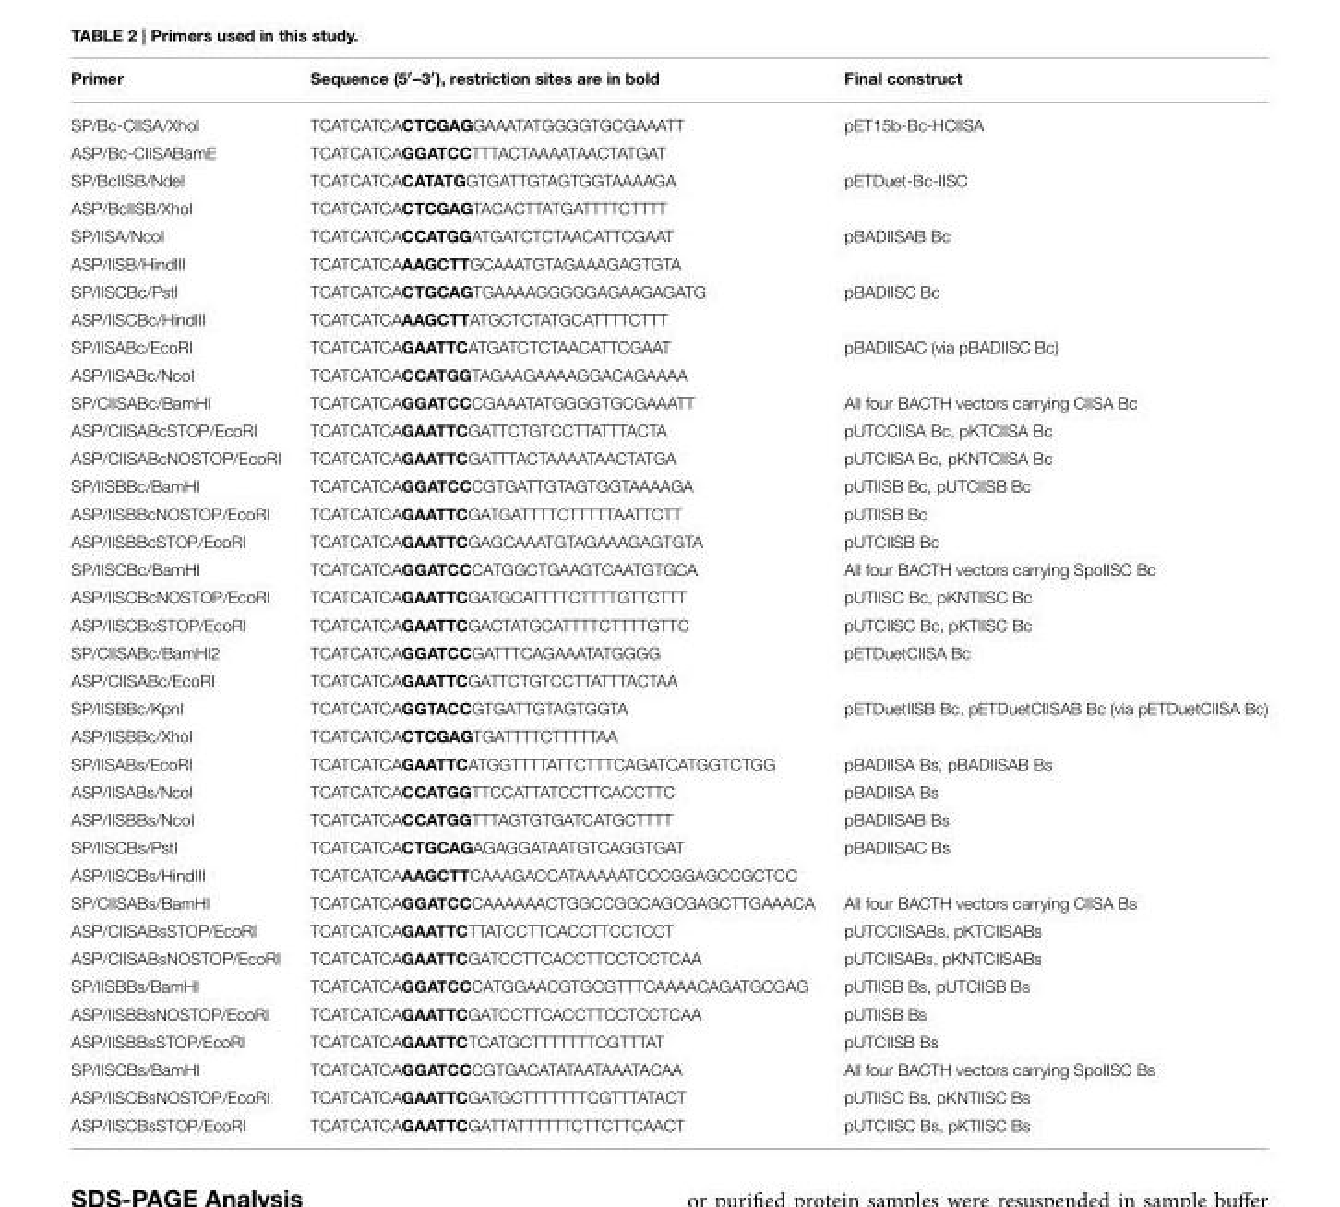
<table><thead><tr><td>Primer</td><td>Sequence (5′–3′), restriction sites are in bold</td><td>Final construct</td></tr></thead><tbody><tr><td>SP/Bc-CIISA/XhoI</td><td>TCATCATCACTCGAGGAAATATGGGGTGCGAAATT</td><td>pET15b-Bc-HCIISA</td></tr><tr><td>ASP/Bc-CIISABamE</td><td>TCATCATCAGGATCCTTTACTAAAATAACTATGAT</td><td></td></tr><tr><td>SP/BcIISB/NdeI</td><td>TCATCATCACATATGGTGATTGTAGTGGTAAAAGA</td><td>pETDuet-Bc-IISC</td></tr><tr><td>ASP/BcIISB/XhoI</td><td>TCATCATCACTCGAGTACACTTATGATTTTCTTTT</td><td></td></tr><tr><td>SP/IISA/NcoI</td><td>TCATCATCACCATGGATGATCTCTAACATTCGAAT</td><td>pBADIISAB Bc</td></tr><tr><td>ASP/IISB/HindIII</td><td>TCATCATCAAAGCTTGCAAATGTAGAAAGAGTGTA</td><td></td></tr><tr><td>SP/IISCBc/PstI</td><td>TCATCATCACTGCAGTGAAAAGGGGGAGAAGAGATG</td><td>pBADIISC Bc</td></tr><tr><td>ASP/IISCBc/HindIII</td><td>TCATCATCAAAGCTTATGCTCTATGCATTTTCTTT</td><td></td></tr><tr><td>SP/IISABc/EcoRI</td><td>TCATCATCAGAATTCATGATCTCTAACATTCGAAT</td><td>pBADIISAC (via pBADIISC Bc)</td></tr><tr><td>ASP/IISABc/NcoI</td><td>TCATCATCACCATGGTAGAAGAAAAGGACAGAAAA</td><td></td></tr><tr><td>SP/CIISABc/BamHI</td><td>TCATCATCAGGATCCCGAAATATGGGGTGCGAAATT</td><td>All four BACTH vectors carrying CIISA Bc</td></tr><tr><td>ASP/CIISABcSTOP/EcoRI</td><td>TCATCATCAGAATTCGATTCTGTCCTTATTTACTA</td><td>pUTCCIISA Bc, pKTCIISA Bc</td></tr><tr><td>ASP/CIISABcNOSTOP/EcoRI</td><td>TCATCATCAGAATTCGATTTACTAAAATAACTATGA</td><td>pUTCIISA Bc, pKNTCIISA Bc</td></tr><tr><td>SP/IISBBc/BamHI</td><td>TCATCATCAGGATCCCGTGATTGTAGTGGTAAAAGA</td><td>pUTIISB Bc, pUTCIISB Bc</td></tr><tr><td>ASP/IISBBcNOSTOP/EcoRI</td><td>TCATCATCAGAATTCGATGATTTTCTTTTTAATTCTT</td><td>pUTIISB Bc</td></tr><tr><td>ASP/IISBBcSTOP/EcoRI</td><td>TCATCATCAGAATTCGAGCAAATGTAGAAAGAGTGTA</td><td>pUTCIISB Bc</td></tr><tr><td>SP/IISCBc/BamHI</td><td>TCATCATCAGGATCCCATGGCTGAAGTCAATGTGCA</td><td>All four BACTH vectors carrying SpoIISC Bc</td></tr><tr><td>ASP/IISCBcNOSTOP/EcoRI</td><td>TCATCATCAGAATTCGATGCATTTTCTTTTGTTCTTT</td><td>pUTIISC Bc, pKNTIISC Bc</td></tr><tr><td>ASP/IISCBcSTOP/EcoRI</td><td>TCATCATCAGAATTCGACTATGCATTTTCTTTTGTTC</td><td>pUTCIISC Bc, pKTIISC Bc</td></tr><tr><td>SP/CIISABc/BamHI2</td><td>TCATCATCAGGATCCGATTTCAGAAATATGGGG</td><td>pETDuetCIISA Bc</td></tr><tr><td>ASP/CIISABc/EcoRI</td><td>TCATCATCAGAATTCGATTCTGTCCTTATTTACTAA</td><td></td></tr><tr><td>SP/IISBBc/KpnI</td><td>TCATCATCAGGTACCGTGATTGTAGTGGTA</td><td>pETDuetIISB Bc, pETDuetCIISAB Bc (via pETDuetCIISA Bc)</td></tr><tr><td>ASP/IISBBc/XhoI</td><td>TCATCATCACTCGAGTGATTTTCTTTTTAA</td><td></td></tr><tr><td>SP/IISABs/EcoRI</td><td>TCATCATCAGAATTCATGGTTTTATTCTTTCAGATCATGGTCTGG</td><td>pBADIISA Bs, pBADIISAB Bs</td></tr><tr><td>ASP/IISABs/NcoI</td><td>TCATCATCACCATGGTTCCATTATCCTTCACCTTC</td><td>pBADIISA Bs</td></tr><tr><td>ASP/IISBBs/NcoI</td><td>TCATCATCACCATGGTTTAGTGTGATCATGCTTTT</td><td>pBADIISAB Bs</td></tr><tr><td>SP/IISCBs/PstI</td><td>TCATCATCACTGCAGAGAGGATAATGTCAGGTGAT</td><td>pBADIISAC Bs</td></tr><tr><td>ASP/IISCBs/HindIII</td><td>TCATCATCAAAGCTTCAAAGACCATAAAAATCCCGGAGCCGCTCC</td><td></td></tr><tr><td>SP/CIISABs/BamHI</td><td>TCATCATCAGGATCCCAAAAAACTGGCCGGCAGCGAGCTTGAAACA</td><td>All four BACTH vectors carrying CIISA Bs</td></tr><tr><td>ASP/CIISABsSTOP/EcoRI</td><td>TCATCATCAGAATTCTTATCCTTCACCTTCCTCCT</td><td>pUTCCIISABs, pKTCIISABs</td></tr><tr><td>ASP/CIISABsNOSTOP/EcoRI</td><td>TCATCATCAGAATTCGATCCTTCACCTTCCTCCTCAA</td><td>pUTCIISABs, pKNTCIISABs</td></tr><tr><td>SP/IISBBs/BamHI</td><td>TCATCATCAGGATCCCATGGAACGTGCGTTTCAAAACAGATGCGAG</td><td>pUTIISB Bs, pUTCIISB Bs</td></tr><tr><td>ASP/IISBBsNOSTOP/EcoRI</td><td>TCATCATCAGAATTCGATCCTTCACCTTCCTCCTCAA</td><td>pUTIISB Bs</td></tr><tr><td>ASP/IISBBsSTOP/EcoRI</td><td>TCATCATCAGAATTCTCATGCTTTTTTTCGTTTAT</td><td>pUTCIISB Bs</td></tr><tr><td>SP/IISCBs/BamHI</td><td>TCATCATCAGGATCCCGTGACATATAATAAATACAA</td><td>All four BACTH vectors carrying SpoIISC Bs</td></tr><tr><td>ASP/IISCBsNOSTOP/EcoRI</td><td>TCATCATCAGAATTCGATGCTTTTTTTCGTTTATACT</td><td>pUTIISC Bs, pKNTIISC Bs</td></tr><tr><td>ASP/IISCBsSTOP/EcoRI</td><td>TCATCATCAGAATTCGATTATTTTTTCTTCTTCAACT</td><td>pUTCIISC Bs, pKTIISC Bs</td></tr></tbody></table>